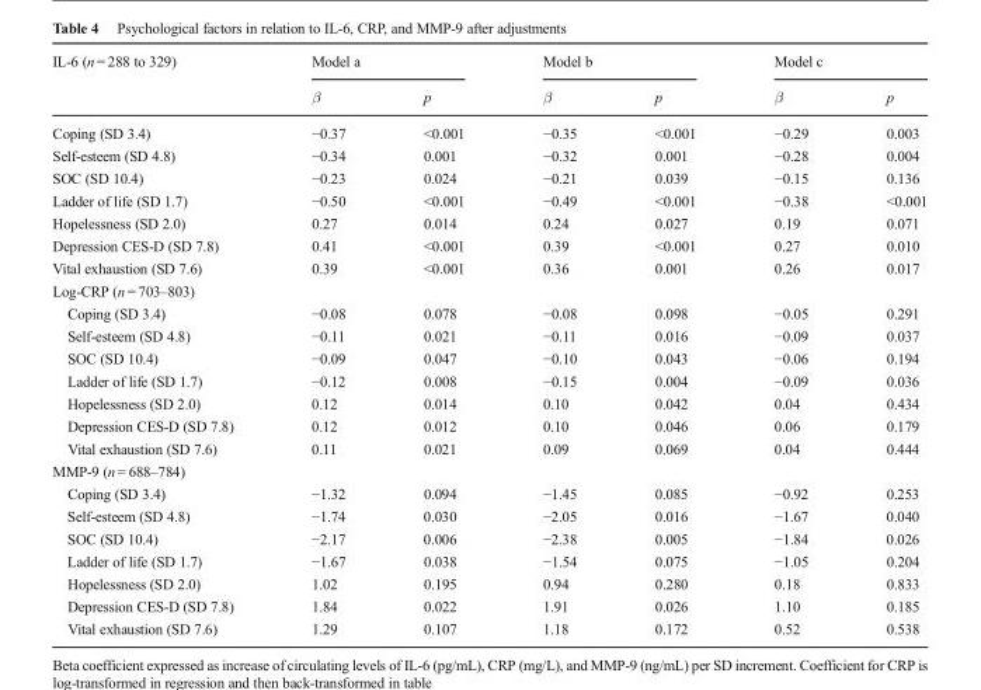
<table><thead><tr><td rowspan="2">IL-6 (n = 288 to 329)</td><td colspan="2">Model a</td><td colspan="2">Model b</td><td colspan="2">Model c</td></tr><tr><td>β</td><td>p</td><td>β</td><td>p</td><td>β</td><td>p</td></tr></thead><tbody><tr><td>Coping (SD 3.4)</td><td>−0.37</td><td>&lt;0.001</td><td>−0.35</td><td>&lt;0.001</td><td>−0.29</td><td>0.003</td></tr><tr><td>Self-esteem (SD 4.8)</td><td>−0.34</td><td>0.001</td><td>−0.32</td><td>0.001</td><td>−0.28</td><td>0.004</td></tr><tr><td>SOC (SD 10.4)</td><td>−0.23</td><td>0.024</td><td>−0.21</td><td>0.039</td><td>−0.15</td><td>0.136</td></tr><tr><td>Ladder of life (SD 1.7)</td><td>−0.50</td><td>&lt;0.001</td><td>−0.49</td><td>&lt;0.001</td><td>−0.38</td><td>&lt;0.001</td></tr><tr><td>Hopelessness (SD 2.0)</td><td>0.27</td><td>0.014</td><td>0.24</td><td>0.027</td><td>0.19</td><td>0.071</td></tr><tr><td>Depression CES-D (SD 7.8)</td><td>0.41</td><td>&lt;0.001</td><td>0.39</td><td>&lt;0.001</td><td>0.27</td><td>0.010</td></tr><tr><td>Vital exhaustion (SD 7.6)</td><td>0.39</td><td>&lt;0.001</td><td>0.36</td><td>0.001</td><td>0.26</td><td>0.017</td></tr><tr><td colspan="7">Log-CRP (n = 703–803)</td></tr><tr><td>Coping (SD 3.4)</td><td>−0.08</td><td>0.078</td><td>−0.08</td><td>0.098</td><td>−0.05</td><td>0.291</td></tr><tr><td>Self-esteem (SD 4.8)</td><td>−0.11</td><td>0.021</td><td>−0.11</td><td>0.016</td><td>−0.09</td><td>0.037</td></tr><tr><td>SOC (SD 10.4)</td><td>−0.09</td><td>0.047</td><td>−0.10</td><td>0.043</td><td>−0.06</td><td>0.194</td></tr><tr><td>Ladder of life (SD 1.7)</td><td>−0.12</td><td>0.008</td><td>−0.15</td><td>0.004</td><td>−0.09</td><td>0.036</td></tr><tr><td>Hopelessness (SD 2.0)</td><td>0.12</td><td>0.014</td><td>0.10</td><td>0.042</td><td>0.04</td><td>0.434</td></tr><tr><td>Depression CES-D (SD 7.8)</td><td>0.12</td><td>0.012</td><td>0.10</td><td>0.046</td><td>0.06</td><td>0.179</td></tr><tr><td>Vital exhaustion (SD 7.6)</td><td>0.11</td><td>0.021</td><td>0.09</td><td>0.069</td><td>0.04</td><td>0.444</td></tr><tr><td colspan="7">MMP-9 (n = 688–784)</td></tr><tr><td>Coping (SD 3.4)</td><td>−1.32</td><td>0.094</td><td>−1.45</td><td>0.085</td><td>−0.92</td><td>0.253</td></tr><tr><td>Self-esteem (SD 4.8)</td><td>−1.74</td><td>0.030</td><td>−2.05</td><td>0.016</td><td>−1.67</td><td>0.040</td></tr><tr><td>SOC (SD 10.4)</td><td>−2.17</td><td>0.006</td><td>−2.38</td><td>0.005</td><td>−1.84</td><td>0.026</td></tr><tr><td>Ladder of life (SD 1.7)</td><td>−1.67</td><td>0.038</td><td>−1.54</td><td>0.075</td><td>−1.05</td><td>0.204</td></tr><tr><td>Hopelessness (SD 2.0)</td><td>1.02</td><td>0.195</td><td>0.94</td><td>0.280</td><td>0.18</td><td>0.833</td></tr><tr><td>Depression CES-D (SD 7.8)</td><td>1.84</td><td>0.022</td><td>1.91</td><td>0.026</td><td>1.10</td><td>0.185</td></tr><tr><td>Vital exhaustion (SD 7.6)</td><td>1.29</td><td>0.107</td><td>1.18</td><td>0.172</td><td>0.52</td><td>0.538</td></tr></tbody></table>